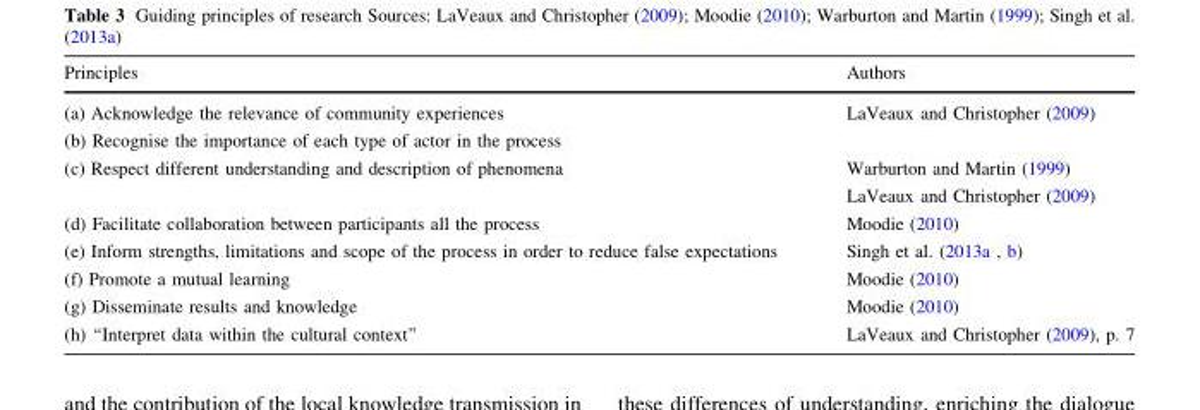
<table><thead><tr><td>Principles</td><td>Authors</td></tr></thead><tbody><tr><td>(a) Acknowledge the relevance of community experiences</td><td>LaVeaux and Christopher (2009)</td></tr><tr><td colspan="2">(b) Recognise the importance of each type of actor in the process</td></tr><tr><td>(c) Respect different understanding and description of phenomena</td><td>Warburton and Martin (1999) LaVeaux and Christopher (2009)</td></tr><tr><td>(d) Facilitate collaboration between participants all the process</td><td>Moodie (2010)</td></tr><tr><td>(e) Inform strengths, limitations and scope of the process in order to reduce false expectations</td><td>Singh et al. (2013a , b)</td></tr><tr><td>(f) Promote a mutual learning</td><td>Moodie (2010)</td></tr><tr><td>(g) Disseminate results and knowledge</td><td>Moodie (2010)</td></tr><tr><td>(h) ‘‘Interpret data within the cultural context’’</td><td>LaVeaux and Christopher (2009), p. 7</td></tr></tbody></table>